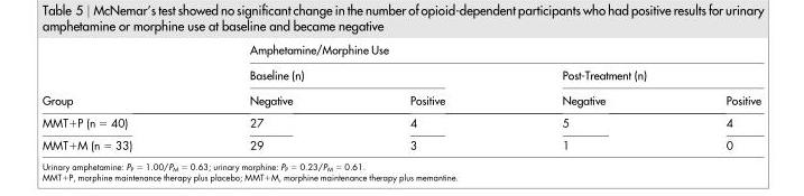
<table><thead><tr><td rowspan="3">Group</td><td colspan="4">Amphetamine/Morphine Use</td></tr><tr><td colspan="2">Baseline (n)</td><td colspan="2">Post-Treatment (n)</td></tr><tr><td>Negative</td><td>Positive</td><td>Negative</td><td>Positive</td></tr></thead><tbody><tr><td>MMT+P (n = 40)</td><td>27</td><td>4</td><td>5</td><td>4</td></tr><tr><td>MMT+M (n = 33)</td><td>29</td><td>3</td><td>1</td><td>0</td></tr></tbody></table>